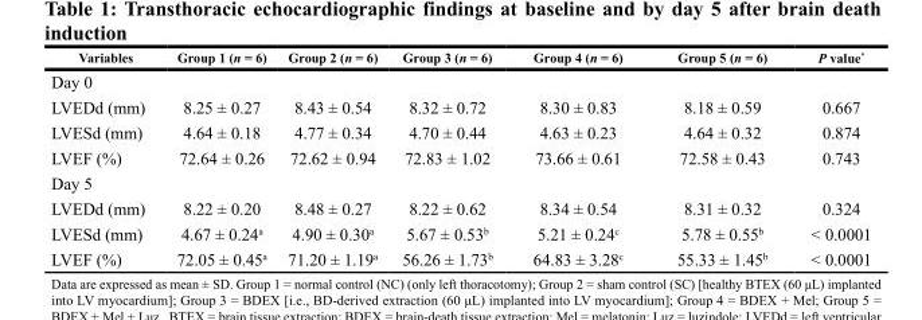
<table><thead><tr><td>Variables</td><td>Group 1 (n = 6)</td><td>Group 2 (n = 6)</td><td>Group 3 (n = 6)</td><td>Group 4 (n = 6)</td><td>Group 5 (n = 6)</td><td>P value*</td></tr></thead><tbody><tr><td colspan="7">Day 0</td></tr><tr><td>LVEDd (mm)</td><td>8.25 ± 0.27</td><td>8.43 ± 0.54</td><td>8.32 ± 0.72</td><td>8.30 ± 0.83</td><td>8.18 ± 0.59</td><td>0.667</td></tr><tr><td>LVESd (mm)</td><td>4.64 ± 0.18</td><td>4.77 ± 0.34</td><td>4.70 ± 0.44</td><td>4.63 ± 0.23</td><td>4.64 ± 0.32</td><td>0.874</td></tr><tr><td>LVEF (%)</td><td>72.64 ± 0.26</td><td>72.62 ± 0.94</td><td>72.83 ± 1.02</td><td>73.66 ± 0.61</td><td>72.58 ± 0.43</td><td>0.743</td></tr><tr><td colspan="7">Day 5</td></tr><tr><td>LVEDd (mm)</td><td>8.22 ± 0.20</td><td>8.48 ± 0.27</td><td>8.22 ± 0.62</td><td>8.34 ± 0.54</td><td>8.31 ± 0.32</td><td>0.324</td></tr><tr><td>LVESd (mm)</td><td>4.67 ± 0.24<sup>a</sup></td><td>4.90 ± 0.30<sup>a</sup></td><td>5.67 ± 0.53<sup>b</sup></td><td>5.21 ± 0.24<sup>c</sup></td><td>5.78 ± 0.55<sup>b</sup></td><td>&lt; 0.0001</td></tr><tr><td>LVEF (%)</td><td>72.05 ± 0.45<sup>a</sup></td><td>71.20 ± 1.19<sup>a</sup></td><td>56.26 ± 1.73<sup>b</sup></td><td>64.83 ± 3.28<sup>c</sup></td><td>55.33 ± 1.45<sup>b</sup></td><td>&lt; 0.0001</td></tr></tbody></table>